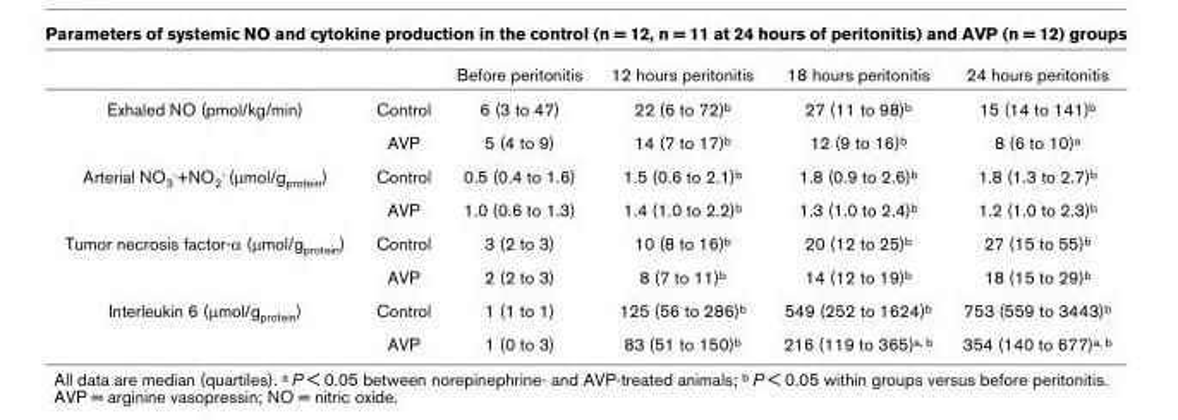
<table><thead><tr><td></td><td></td><td>Before peritonitis</td><td>12 hours peritonitis</td><td>18 hours peritonitis</td><td>24 hours peritonitis</td></tr></thead><tbody><tr><td rowspan="2">Exhaled NO (pmol/kg/min)</td><td>Control</td><td>6 (3 to 47)</td><td>22 (6 to 72)<sup>b</sup></td><td>27 (11 to 98)<sup>b</sup></td><td>15 (14 to 141)<sup>b</sup></td></tr><tr><td>AVP</td><td>5 (4 to 9)</td><td>14 (7 to 17)<sup>b</sup></td><td>12 (9 to 16)<sup>b</sup></td><td>8 (6 to 10)<sup>a</sup></td></tr><tr><td rowspan="2">Arterial NO<sub>3</sub><sup>-</sup>+NO<sub>2</sub><sup>-</sup> (μmol/g<sub>protein</sub>)</td><td>Control</td><td>0.5 (0.4 to 1.6)</td><td>1.5 (0.6 to 2.1)<sup>b</sup></td><td>1.8 (0.9 to 2.6)<sup>b</sup></td><td>1.8 (1.3 to 2.7)<sup>b</sup></td></tr><tr><td>AVP</td><td>1.0 (0.6 to 1.3)</td><td>1.4 (1.0 to 2.2)<sup>b</sup></td><td>1.3 (1.0 to 2.4)<sup>b</sup></td><td>1.2 (1.0 to 2.3)<sup>b</sup></td></tr><tr><td rowspan="2">Tumor necrosis factor-α (μmol/g<sub>protein</sub>)</td><td>Control</td><td>3 (2 to 3)</td><td>10 (8 to 16)<sup>b</sup></td><td>20 (12 to 25)<sup>b</sup></td><td>27 (15 to 55)<sup>b</sup></td></tr><tr><td>AVP</td><td>2 (2 to 3)</td><td>8 (7 to 11)<sup>b</sup></td><td>14 (12 to 19)<sup>b</sup></td><td>18 (15 to 29)<sup>b</sup></td></tr><tr><td rowspan="2">Interleukin 6 (μmol/g<sub>protein</sub>)</td><td>Control</td><td>1 (1 to 1)</td><td>125 (56 to 286)<sup>b</sup></td><td>549 (252 to 1624)<sup>b</sup></td><td>753 (559 to 3443)<sup>b</sup></td></tr><tr><td>AVP</td><td>1 (0 to 3)</td><td>83 (51 to 150)<sup>b</sup></td><td>216 (119 to 365)<sup>a, b</sup></td><td>354 (140 to 677)<sup>a, b</sup></td></tr></tbody></table>